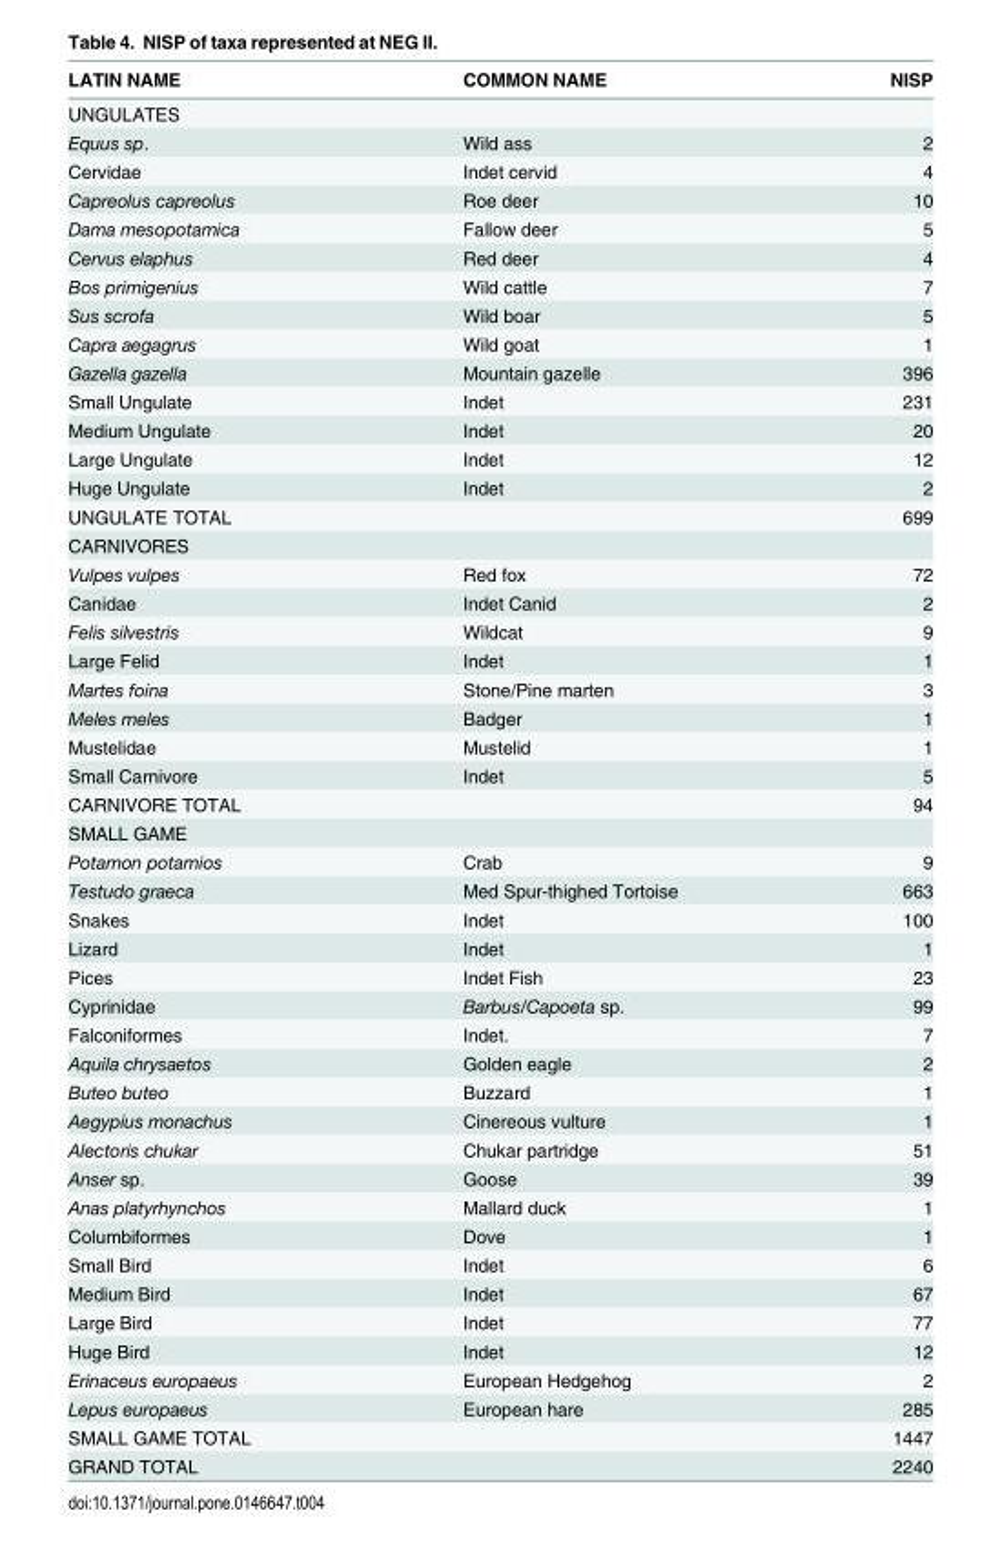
<table><thead><tr><td>LATIN NAME</td><td>COMMON NAME</td><td>NISP</td></tr></thead><tbody><tr><td colspan="3">UNGULATES</td></tr><tr><td>Equus sp.</td><td>Wild ass</td><td>2</td></tr><tr><td>Cervidae</td><td>Indet cervid</td><td>4</td></tr><tr><td>Capreolus capreolus</td><td>Roe deer</td><td>10</td></tr><tr><td>Dama mesopotamica</td><td>Fallow deer</td><td>5</td></tr><tr><td>Cervus elaphus</td><td>Red deer</td><td>4</td></tr><tr><td>Bos primigenius</td><td>Wild cattle</td><td>7</td></tr><tr><td>Sus scrofa</td><td>Wild boar</td><td>5</td></tr><tr><td>Capra aegagrus</td><td>Wild goat</td><td>1</td></tr><tr><td>Gazella gazella</td><td>Mountain gazelle</td><td>396</td></tr><tr><td>Small Ungulate</td><td>Indet</td><td>231</td></tr><tr><td>Medium Ungulate</td><td>Indet</td><td>20</td></tr><tr><td>Large Ungulate</td><td>Indet</td><td>12</td></tr><tr><td>Huge Ungulate</td><td>Indet</td><td>2</td></tr><tr><td>UNGULATE TOTAL</td><td></td><td>699</td></tr><tr><td colspan="3">CARNIVORES</td></tr><tr><td>Vulpes vulpes</td><td>Red fox</td><td>72</td></tr><tr><td>Canidae</td><td>Indet Canid</td><td>2</td></tr><tr><td>Felis silvestris</td><td>Wildcat</td><td>9</td></tr><tr><td>Large Felid</td><td>Indet</td><td>1</td></tr><tr><td>Martes foina</td><td>Stone/Pine marten</td><td>3</td></tr><tr><td>Meles meles</td><td>Badger</td><td>1</td></tr><tr><td>Mustelidae</td><td>Mustelid</td><td>1</td></tr><tr><td>Small Carnivore</td><td>Indet</td><td>5</td></tr><tr><td>CARNIVORE TOTAL</td><td></td><td>94</td></tr><tr><td colspan="3">SMALL GAME</td></tr><tr><td>Potamon potamios</td><td>Crab</td><td>9</td></tr><tr><td>Testudo graeca</td><td>Med Spur-thighed Tortoise</td><td>663</td></tr><tr><td>Snakes</td><td>Indet</td><td>100</td></tr><tr><td>Lizard</td><td>Indet</td><td>1</td></tr><tr><td>Pices</td><td>Indet Fish</td><td>23</td></tr><tr><td>Cyprinidae</td><td>Barbus/Capoeta sp.</td><td>99</td></tr><tr><td>Falconiformes</td><td>Indet.</td><td>7</td></tr><tr><td>Aquila chrysaetos</td><td>Golden eagle</td><td>2</td></tr><tr><td>Buteo buteo</td><td>Buzzard</td><td>1</td></tr><tr><td>Aegypius monachus</td><td>Cinereous vulture</td><td>1</td></tr><tr><td>Alectoris chukar</td><td>Chukar partridge</td><td>51</td></tr><tr><td>Anser sp.</td><td>Goose</td><td>39</td></tr><tr><td>Anas platyrhynchos</td><td>Mallard duck</td><td>1</td></tr><tr><td>Columbiformes</td><td>Dove</td><td>1</td></tr><tr><td>Small Bird</td><td>Indet</td><td>6</td></tr><tr><td>Medium Bird</td><td>Indet</td><td>67</td></tr><tr><td>Large Bird</td><td>Indet</td><td>77</td></tr><tr><td>Huge Bird</td><td>Indet</td><td>12</td></tr><tr><td>Erinaceus europaeus</td><td>European Hedgehog</td><td>2</td></tr><tr><td>Lepus europaeus</td><td>European hare</td><td>285</td></tr><tr><td>SMALL GAME TOTAL</td><td></td><td>1447</td></tr><tr><td>GRAND TOTAL</td><td></td><td>2240</td></tr></tbody></table>